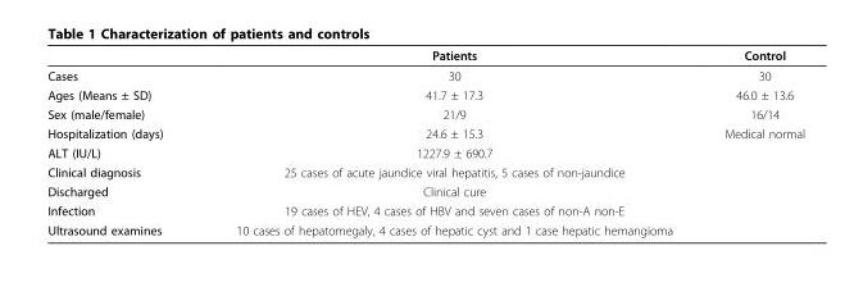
<table><thead><tr><td></td><td>Patients</td><td>Control</td></tr></thead><tbody><tr><td>Cases</td><td>30</td><td>30</td></tr><tr><td>Ages (Means ± SD)</td><td>41.7 ± 17.3</td><td>46.0 ± 13.6</td></tr><tr><td>Sex (male/female)</td><td>21/9</td><td>16/14</td></tr><tr><td>Hospitalization (days)</td><td>24.6 ± 15.3</td><td>Medical normal</td></tr><tr><td>ALT (IU/L)</td><td>1227.9 ± 690.7</td><td></td></tr><tr><td>Clinical diagnosis</td><td>25 cases of acute jaundice viral hepatitis, 5 cases of non-jaundice</td><td></td></tr><tr><td>Discharged</td><td>Clinical cure</td><td></td></tr><tr><td>Infection</td><td>19 cases of HEV, 4 cases of HBV and seven cases of non-A non-E</td><td></td></tr><tr><td>Ultrasound examines</td><td>10 cases of hepatomegaly, 4 cases of hepatic cyst and 1 case hepatic hemangioma</td><td></td></tr></tbody></table>